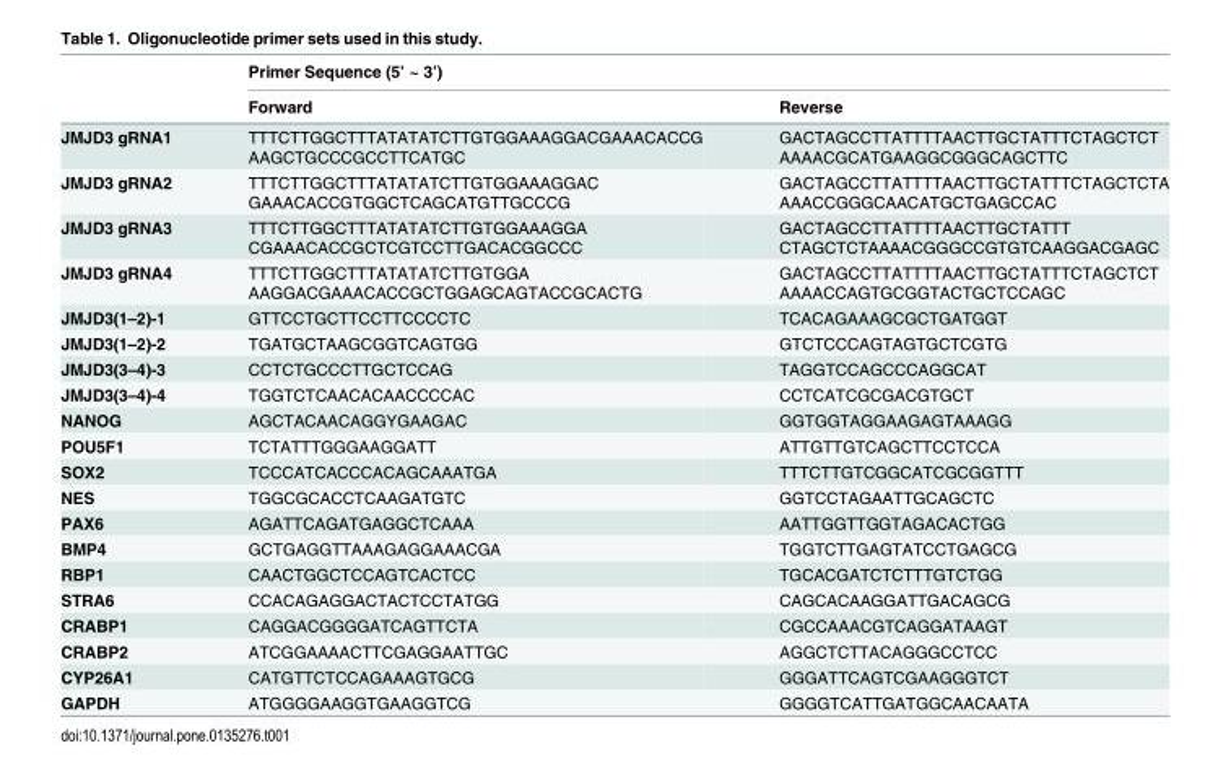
<table><thead><tr><td rowspan="2"></td><td colspan="2">Primer Sequence (5’ ~ 3’)</td></tr><tr><td>Forward</td><td>Reverse</td></tr></thead><tbody><tr><td>JMJD3 gRNA1</td><td>TTTCTTGGCTTTATATATCTTGTGGAAAGGACGAAACACCG AAGCTGCCCGCCTTCATGC</td><td>GACTAGCCTTATTTTAACTTGCTATTTCTAGCTCT AAAACGCATGAAGGCGGGCAGCTTC</td></tr><tr><td>JMJD3 gRNA2</td><td>TTTCTTGGCTTTATATATCTTGTGGAAAGGAC GAAACACCGTGGCTCAGCATGTTGCCCG</td><td>GACTAGCCTTATTTTAACTTGCTATTTCTAGCTCTA AAACCGGGCAACATGCTGAGCCAC</td></tr><tr><td>JMJD3 gRNA3</td><td>TTTCTTGGCTTTATATATCTTGTGGAAAGGA CGAAACACCGCTCGTCCTTGACACGGCCC</td><td>GACTAGCCTTATTTTAACTTGCTATTT CTAGCTCTAAAACGGGCCGTGTCAAGGACGAGC</td></tr><tr><td>JMJD3 gRNA4</td><td>TTTCTTGGCTTTATATATCTTGTGGA AAGGACGAAACACCGCTGGAGCAGTACCGCACTG</td><td>GACTAGCCTTATTTTAACTTGCTATTTCTAGCTCT AAAACCAGTGCGGTACTGCTCCAGC</td></tr><tr><td>JMJD3(1–2)-1</td><td>GTTCCTGCTTCCTTCCCCTC</td><td>TCACAGAAAGCGCTGATGGT</td></tr><tr><td>JMJD3(1–2)-2</td><td>TGATGCTAAGCGGTCAGTGG</td><td>GTCTCCCAGTAGTGCTCGTG</td></tr><tr><td>JMJD3(3–4)-3</td><td>CCTCTGCCCTTGCTCCAG</td><td>TAGGTCCAGCCCAGGCAT</td></tr><tr><td>JMJD3(3–4)-4</td><td>TGGTCTCAACACAACCCCAC</td><td>CCTCATCGCGACGTGCT</td></tr><tr><td>NANOG</td><td>AGCTACAACAGGYGAAGAC</td><td>GGTGGTAGGAAGAGTAAAGG</td></tr><tr><td>POU5F1</td><td>TCTATTTGGGAAGGATT</td><td>ATTGTTGTCAGCTTCCTCCA</td></tr><tr><td>SOX2</td><td>TCCCATCACCCACAGCAAATGA</td><td>TTTCTTGTCGGCATCGCGGTTT</td></tr><tr><td>NES</td><td>TGGCGCACCTCAAGATGTC</td><td>GGTCCTAGAATTGCAGCTC</td></tr><tr><td>PAX6</td><td>AGATTCAGATGAGGCTCAAA</td><td>AATTGGTTGGTAGACACTGG</td></tr><tr><td>BMP4</td><td>GCTGAGGTTAAAGAGGAAACGA</td><td>TGGTCTTGAGTATCCTGAGCG</td></tr><tr><td>RBP1</td><td>CAACTGGCTCCAGTCACTCC</td><td>TGCACGATCTCTTTGTCTGG</td></tr><tr><td>STRA6</td><td>CCACAGAGGACTACTCCTATGG</td><td>CAGCACAAGGATTGACAGCG</td></tr><tr><td>CRABP1</td><td>CAGGACGGGGATCAGTTCTA</td><td>CGCCAAACGTCAGGATAAGT</td></tr><tr><td>CRABP2</td><td>ATCGGAAAACTTCGAGGAATTGC</td><td>AGGCTCTTACAGGGCCTCC</td></tr><tr><td>CYP26A1</td><td>CATGTTCTCCAGAAAGTGCG</td><td>GGGATTCAGTCGAAGGGTCT</td></tr><tr><td>GAPDH</td><td>ATGGGGAAGGTGAAGGTCG</td><td>GGGGTCATTGATGGCAACAATA</td></tr></tbody></table>